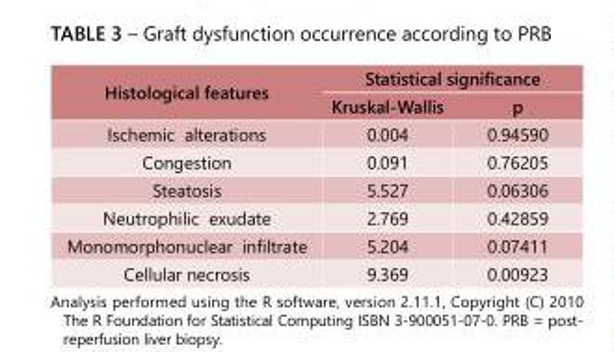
<table><tbody><tr><td rowspan="2">Histological features</td><td colspan="2">Statistical significance</td></tr><tr><td>Kruskal-Wallis</td><td>p</td></tr><tr><td>Ischemic alterations</td><td>0.004</td><td>0.94590</td></tr><tr><td>Congestion</td><td>0.091</td><td>0.76205</td></tr><tr><td>Steatosis</td><td>5.527</td><td>0.06306</td></tr><tr><td>Neutrophilic exudate</td><td>2.769</td><td>0.42859</td></tr><tr><td>Monomorphonuclear infiltrate</td><td>5.204</td><td>0.07411</td></tr><tr><td>Cellular necrosis</td><td>9.369</td><td>0.00923</td></tr></tbody></table>